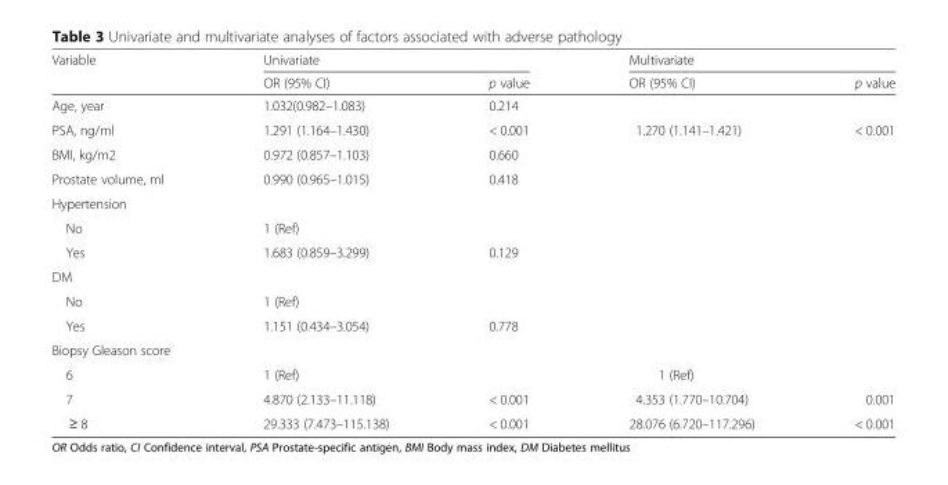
<table><thead><tr><td rowspan="2">Variable</td><td colspan="2">Univariate</td><td colspan="2">Multivariate</td></tr><tr><td>OR (95% CI)</td><td>p value</td><td>OR (95% CI)</td><td>p value</td></tr></thead><tbody><tr><td>Age, year</td><td>1.032(0.982–1.083)</td><td>0.214</td><td></td><td></td></tr><tr><td>PSA, ng/ml</td><td>1.291 (1.164–1.430)</td><td>&lt; 0.001</td><td>1.270 (1.141–1.421)</td><td>&lt; 0.001</td></tr><tr><td>BMI, kg/m2</td><td>0.972 (0.857–1.103)</td><td>0.660</td><td></td><td></td></tr><tr><td>Prostate volume, ml</td><td>0.990 (0.965–1.015)</td><td>0.418</td><td></td><td></td></tr><tr><td colspan="5">Hypertension</td></tr><tr><td>No</td><td>1 (Ref)</td><td></td><td></td><td></td></tr><tr><td>Yes</td><td>1.683 (0.859–3.299)</td><td>0.129</td><td></td><td></td></tr><tr><td colspan="5">DM</td></tr><tr><td>No</td><td>1 (Ref)</td><td></td><td></td><td></td></tr><tr><td>Yes</td><td>1.151 (0.434–3.054)</td><td>0.778</td><td></td><td></td></tr><tr><td colspan="5">Biopsy Gleason score</td></tr><tr><td>6</td><td>1 (Ref)</td><td></td><td>1 (Ref)</td><td></td></tr><tr><td>7</td><td>4.870 (2.133–11.118)</td><td>&lt; 0.001</td><td>4.353 (1.770–10.704)</td><td>0.001</td></tr><tr><td>≥ 8</td><td>29.333 (7.473–115.138)</td><td>&lt; 0.001</td><td>28.076 (6.720–117.296)</td><td>&lt; 0.001</td></tr></tbody></table>